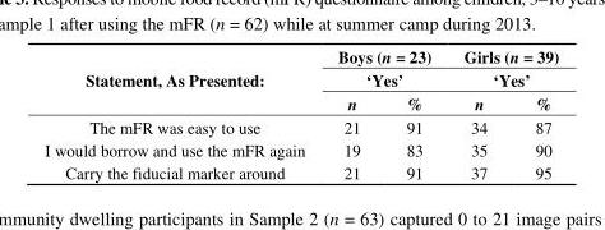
<table><thead><tr><td rowspan="3">Statement, As Presented:</td><td rowspan="2" colspan="2">Boys (n = 23) ‘Yes’</td><td rowspan="2" colspan="2">Girls (n = 39) ‘Yes’</td></tr><tr></tr><tr><td>n</td><td>%</td><td>n</td><td>%</td></tr></thead><tbody><tr><td>The mFR was easy to use</td><td>21</td><td>91</td><td>34</td><td>87</td></tr><tr><td>I would borrow and use the mFR again</td><td>19</td><td>83</td><td>35</td><td>90</td></tr><tr><td>Carry the fiducial marker around</td><td>21</td><td>91</td><td>37</td><td>95</td></tr></tbody></table>